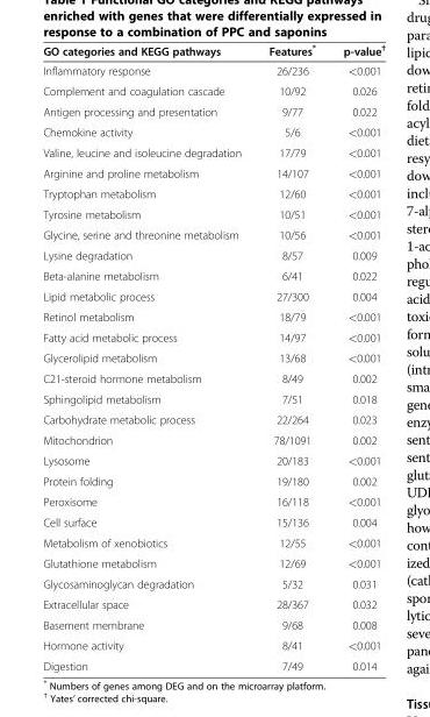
<table><thead><tr><td>GO categories and KEGG pathways</td><td>Features*</td><td>p-value<sup>†</sup></td></tr></thead><tbody><tr><td>Inflammatory response</td><td>26/236</td><td>&lt;0.001</td></tr><tr><td>Complement and coagulation cascade</td><td>10/92</td><td>0.026</td></tr><tr><td>Antigen processing and presentation</td><td>9/77</td><td>0.022</td></tr><tr><td>Chemokine activity</td><td>5/6</td><td>&lt;0.001</td></tr><tr><td>Valine, leucine and isoleucine degradation</td><td>17/79</td><td>&lt;0.001</td></tr><tr><td>Arginine and proline metabolism</td><td>14/107</td><td>&lt;0.001</td></tr><tr><td>Tryptophan metabolism</td><td>12/60</td><td>&lt;0.001</td></tr><tr><td>Tyrosine metabolism</td><td>10/51</td><td>&lt;0.001</td></tr><tr><td>Glycine, serine and threonine metabolism</td><td>10/56</td><td>&lt;0.001</td></tr><tr><td>Lysine degradation</td><td>8/57</td><td>0.009</td></tr><tr><td>Beta-alanine metabolism</td><td>6/41</td><td>0.022</td></tr><tr><td>Lipid metabolic process</td><td>27/300</td><td>0.004</td></tr><tr><td>Retinol metabolism</td><td>18/79</td><td>&lt;0.001</td></tr><tr><td>Fatty acid metabolic process</td><td>14/97</td><td>&lt;0.001</td></tr><tr><td>Glycerolipid metabolism</td><td>13/68</td><td>&lt;0.001</td></tr><tr><td>C21-steroid hormone metabolism</td><td>8/49</td><td>0.002</td></tr><tr><td>Sphingolipid metabolism</td><td>7/51</td><td>0.018</td></tr><tr><td>Carbohydrate metabolic process</td><td>22/264</td><td>0.023</td></tr><tr><td>Mitochondrion</td><td>78/1091</td><td>0.002</td></tr><tr><td>Lysosome</td><td>20/183</td><td>&lt;0.001</td></tr><tr><td>Protein folding</td><td>19/180</td><td>0.002</td></tr><tr><td>Peroxisome</td><td>16/118</td><td>&lt;0.001</td></tr><tr><td>Cell surface</td><td>15/136</td><td>0.004</td></tr><tr><td>Metabolism of xenobiotics</td><td>12/55</td><td>&lt;0.001</td></tr><tr><td>Glutathione metabolism</td><td>12/69</td><td>&lt;0.001</td></tr><tr><td>Glycosaminoglycan degradation</td><td>5/32</td><td>0.031</td></tr><tr><td>Extracellular space</td><td>28/367</td><td>0.032</td></tr><tr><td>Basement membrane</td><td>9/68</td><td>0.008</td></tr><tr><td>Hormone activity</td><td>8/41</td><td>&lt;0.001</td></tr><tr><td>Digestion</td><td>7/49</td><td>0.014</td></tr></tbody></table>